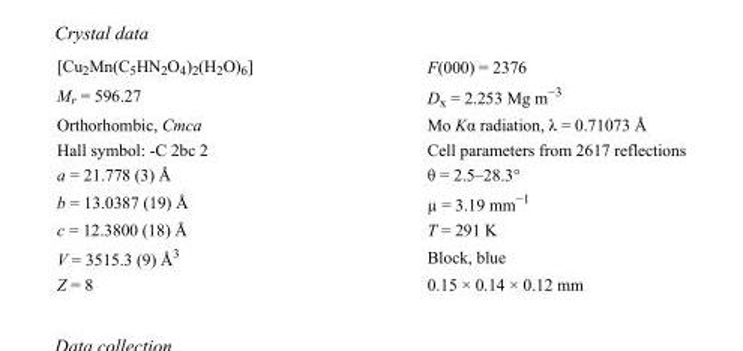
<table><tbody><tr><td>[Cu<sub>2</sub>Mn(C<sub>5</sub>HN<sub>2</sub>O<sub>4</sub>)<sub>2</sub>(H<sub>2</sub>O)<sub>6</sub>]</td><td>F(000) = 2376</td></tr><tr><td>M<sub>r</sub> = 596.27</td><td>D<sub>x</sub> = 2.253 Mg m<sup>−3</sup></td></tr><tr><td>Orthorhombic, Cmca</td><td>Mo Kα radiation, λ = 0.71073 Å</td></tr><tr><td>Hall symbol: -C 2bc 2</td><td>Cell parameters from 2617 reflections</td></tr><tr><td>a = 21.778 (3) Å</td><td>θ = 2.5–28.3°</td></tr><tr><td>b = 13.0387 (19) Å</td><td>µ = 3.19 mm<sup>−1</sup></td></tr><tr><td>c = 12.3800 (18) Å</td><td>T = 291 K</td></tr><tr><td>V = 3515.3 (9) Å<sup>3</sup></td><td>Block, blue</td></tr><tr><td>Z = 8</td><td>0.15 × 0.14 × 0.12 mm</td></tr></tbody></table>